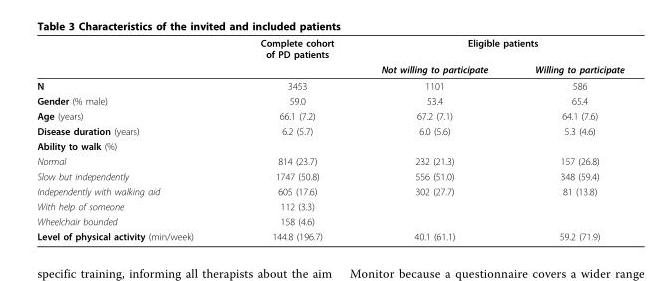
<table><thead><tr><td rowspan="2"></td><td rowspan="2">Complete cohort of PD patients</td><td colspan="2">Eligible patients</td></tr><tr><td>Not willing to participate</td><td>Willing to participate</td></tr></thead><tbody><tr><td>N</td><td>3453</td><td>1101</td><td>586</td></tr><tr><td>Gender (% male)</td><td>59.0</td><td>53.4</td><td>65.4</td></tr><tr><td>Age (years)</td><td>66.1 (7.2)</td><td>67.2 (7.1)</td><td>64.1 (7.6)</td></tr><tr><td>Disease duration (years)</td><td>6.2 (5.7)</td><td>6.0 (5.6)</td><td>5.3 (4.6)</td></tr><tr><td colspan="4">Ability to walk (%)</td></tr><tr><td>Normal</td><td>814 (23.7)</td><td>232 (21.3)</td><td>157 (26.8)</td></tr><tr><td>Slow but independently</td><td>1747 (50.8)</td><td>556 (51.0)</td><td>348 (59.4)</td></tr><tr><td>Independently with walking aid</td><td>605 (17.6)</td><td>302 (27.7)</td><td>81 (13.8)</td></tr><tr><td>With help of someone</td><td>112 (3.3)</td><td></td><td></td></tr><tr><td>Wheelchair bounded</td><td>158 (4.6)</td><td></td><td></td></tr><tr><td>Level of physical activity (min/week)</td><td>144.8 (196.7)</td><td>40.1 (61.1)</td><td>59.2 (71.9)</td></tr></tbody></table>